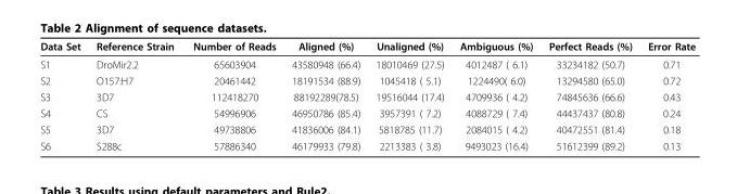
<table><thead><tr><td>Data Set</td><td>Reference Strain</td><td>Number of Reads</td><td>Aligned (%)</td><td>Unaligned (%)</td><td>Ambiguous (%)</td><td>Perfect Reads (%)</td><td>Error Rate</td></tr></thead><tbody><tr><td>S1</td><td>DroMir2.2</td><td>65603904</td><td>43580948 (66.4)</td><td>18010469 (27.5)</td><td>4012487 ( 6.1)</td><td>33234182 (50.7)</td><td>0.71</td></tr><tr><td>S2</td><td>O157:H7</td><td>20461442</td><td>18191534 (88.9)</td><td>1045418 ( 5.1)</td><td>1224490( 6.0)</td><td>13294580 (65.0)</td><td>0.72</td></tr><tr><td>S3</td><td>3D7</td><td>112418270</td><td>88192289(78.5)</td><td>19516044 (17.4)</td><td>4709936 ( 4.2)</td><td>74845636 (66.6)</td><td>0.43</td></tr><tr><td>S4</td><td>CS</td><td>54996906</td><td>46950786 (85.4)</td><td>3957391 ( 7.2)</td><td>4088729 ( 7.4)</td><td>44437437 (80.8)</td><td>0.24</td></tr><tr><td>S5</td><td>3D7</td><td>49738806</td><td>41836006 (84.1)</td><td>5818785 (11.7)</td><td>2084015 ( 4.2)</td><td>40472551 (81.4)</td><td>0.18</td></tr><tr><td>S6</td><td>S288c</td><td>57886340</td><td>46179933 (79.8)</td><td>2213383 ( 3.8)</td><td>9493023 (16.4)</td><td>51612399 (89.2)</td><td>0.13</td></tr></tbody></table>